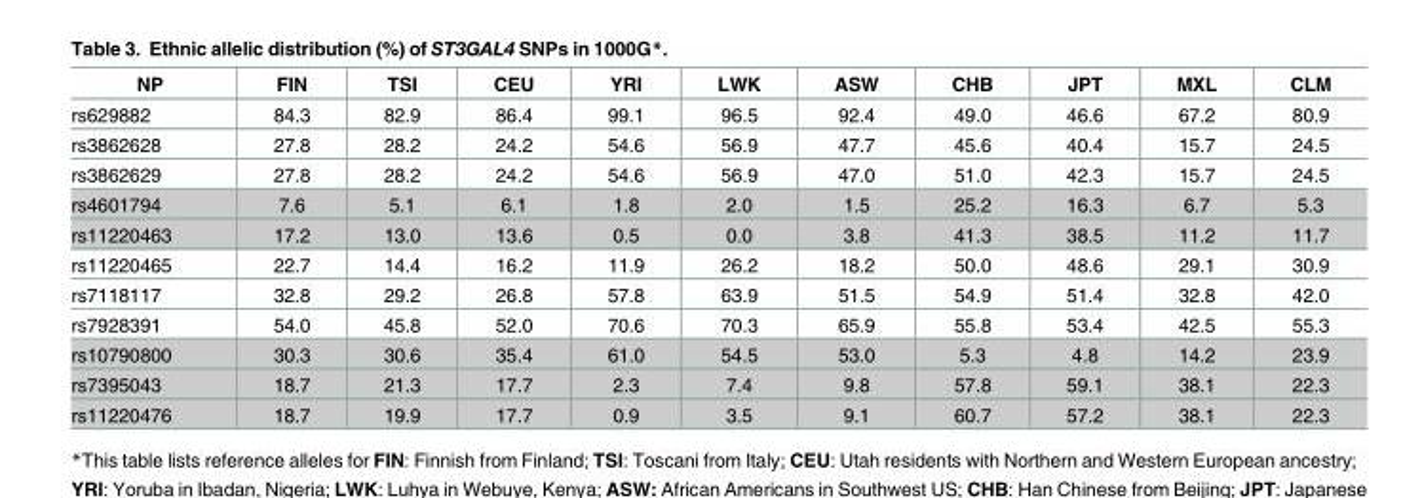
<table><thead><tr><td>NP</td><td>FIN</td><td>TSI</td><td>CEU</td><td>YRI</td><td>LWK</td><td>ASW</td><td>CHB</td><td>JPT</td><td>MXL</td><td>CLM</td></tr></thead><tbody><tr><td>rs629882</td><td>84.3</td><td>82.9</td><td>86.4</td><td>99.1</td><td>96.5</td><td>92.4</td><td>49.0</td><td>46.6</td><td>67.2</td><td>80.9</td></tr><tr><td>rs3862628</td><td>27.8</td><td>28.2</td><td>24.2</td><td>54.6</td><td>56.9</td><td>47.7</td><td>45.6</td><td>40.4</td><td>15.7</td><td>24.5</td></tr><tr><td>rs3862629</td><td>27.8</td><td>28.2</td><td>24.2</td><td>54.6</td><td>56.9</td><td>47.0</td><td>51.0</td><td>42.3</td><td>15.7</td><td>24.5</td></tr><tr><td>rs4601794</td><td>7.6</td><td>5.1</td><td>6.1</td><td>1.8</td><td>2.0</td><td>1.5</td><td>25.2</td><td>16.3</td><td>6.7</td><td>5.3</td></tr><tr><td>rs11220463</td><td>17.2</td><td>13.0</td><td>13.6</td><td>0.5</td><td>0.0</td><td>3.8</td><td>41.3</td><td>38.5</td><td>11.2</td><td>11.7</td></tr><tr><td>rs11220465</td><td>22.7</td><td>14.4</td><td>16.2</td><td>11.9</td><td>26.2</td><td>18.2</td><td>50.0</td><td>48.6</td><td>29.1</td><td>30.9</td></tr><tr><td>rs7118117</td><td>32.8</td><td>29.2</td><td>26.8</td><td>57.8</td><td>63.9</td><td>51.5</td><td>54.9</td><td>51.4</td><td>32.8</td><td>42.0</td></tr><tr><td>rs7928391</td><td>54.0</td><td>45.8</td><td>52.0</td><td>70.6</td><td>70.3</td><td>65.9</td><td>55.8</td><td>53.4</td><td>42.5</td><td>55.3</td></tr><tr><td>rs10790800</td><td>30.3</td><td>30.6</td><td>35.4</td><td>61.0</td><td>54.5</td><td>53.0</td><td>5.3</td><td>4.8</td><td>14.2</td><td>23.9</td></tr><tr><td>rs7395043</td><td>18.7</td><td>21.3</td><td>17.7</td><td>2.3</td><td>7.4</td><td>9.8</td><td>57.8</td><td>59.1</td><td>38.1</td><td>22.3</td></tr><tr><td>rs11220476</td><td>18.7</td><td>19.9</td><td>17.7</td><td>0.9</td><td>3.5</td><td>9.1</td><td>60.7</td><td>57.2</td><td>38.1</td><td>22.3</td></tr></tbody></table>